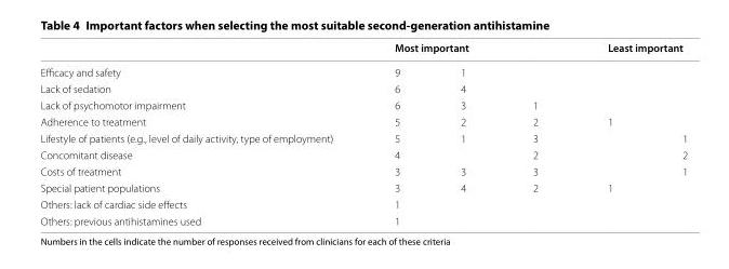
<table><thead><tr><td rowspan="2">Efficacy and safety</td><td colspan="3">Most important</td><td colspan="2">Least important</td></tr><tr><td>9</td><td>1</td><td></td><td></td><td></td></tr></thead><tbody><tr><td>Lack of sedation</td><td>6</td><td>4</td><td></td><td></td><td></td></tr><tr><td>Lack of psychomotor impairment</td><td>6</td><td>3</td><td>1</td><td></td><td></td></tr><tr><td>Adherence to treatment</td><td>5</td><td>2</td><td>2</td><td>1</td><td></td></tr><tr><td>Lifestyle of patients (e.g., level of daily activity, type of employment)</td><td>5</td><td>1</td><td>3</td><td></td><td>1</td></tr><tr><td>Concomitant disease</td><td>4</td><td></td><td>2</td><td></td><td>2</td></tr><tr><td>Costs of treatment</td><td>3</td><td>3</td><td>3</td><td></td><td>1</td></tr><tr><td>Special patient populations</td><td>3</td><td>4</td><td>2</td><td>1</td><td></td></tr><tr><td>Others: lack of cardiac side effects</td><td>1</td><td></td><td></td><td></td><td></td></tr><tr><td>Others: previous antihistamines used</td><td>1</td><td></td><td></td><td></td><td></td></tr></tbody></table>